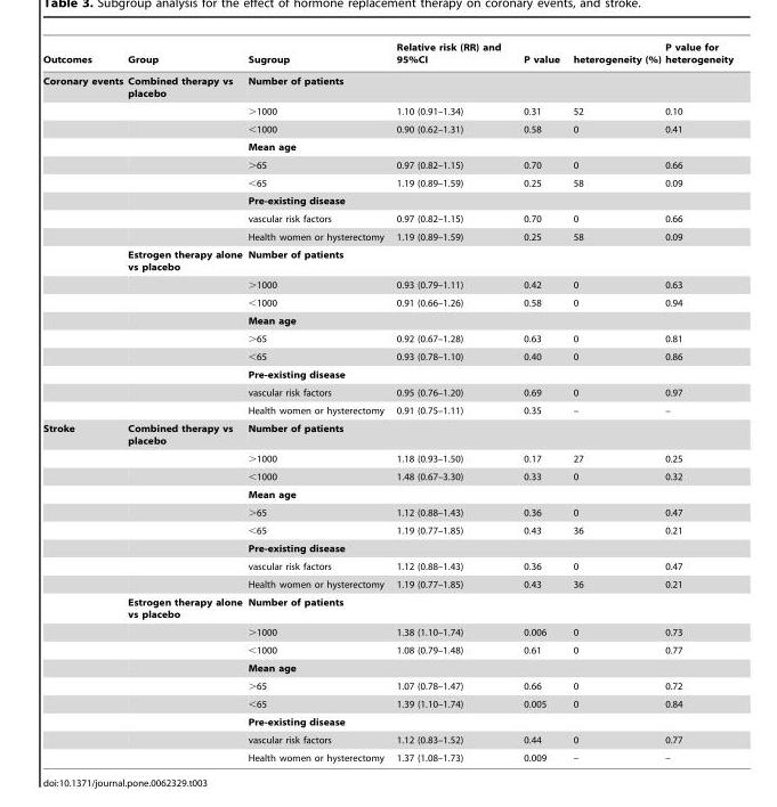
<table><thead><tr><td>Outcomes</td><td>Group</td><td>Sugroup</td><td>Relative risk (RR) and 95%CI</td><td>P value</td><td>heterogeneity (%)</td><td>P value for heterogeneity</td></tr></thead><tbody><tr><td rowspan="18">Coronary events</td><td>Combined therapy vs placebo</td><td colspan="5">Number of patients</td></tr><tr><td></td><td>&gt;1000</td><td>1.10 (0.91–1.34)</td><td>0.31</td><td>52</td><td>0.10</td></tr><tr><td></td><td>&lt;1000</td><td>0.90 (0.62–1.31)</td><td>0.58</td><td>0</td><td>0.41</td></tr><tr><td></td><td colspan="5">Mean age</td></tr><tr><td></td><td>&gt;65</td><td>0.97 (0.82–1.15)</td><td>0.70</td><td>0</td><td>0.66</td></tr><tr><td></td><td>&lt;65</td><td>1.19 (0.89–1.59)</td><td>0.25</td><td>58</td><td>0.09</td></tr><tr><td></td><td colspan="5">Pre-existing disease</td></tr><tr><td></td><td>vascular risk factors</td><td>0.97 (0.82–1.15)</td><td>0.70</td><td>0</td><td>0.66</td></tr><tr><td></td><td>Health women or hysterectomy</td><td>1.19 (0.89–1.59)</td><td>0.25</td><td>58</td><td>0.09</td></tr><tr><td>Estrogen therapy alone vs placebo</td><td colspan="5">Number of patients</td></tr><tr><td></td><td>&gt;1000</td><td>0.93 (0.79–1.11)</td><td>0.42</td><td>0</td><td>0.63</td></tr><tr><td></td><td>&lt;1000</td><td>0.91 (0.66–1.26)</td><td>0.58</td><td>0</td><td>0.94</td></tr><tr><td></td><td colspan="5">Mean age</td></tr><tr><td></td><td>&gt;65</td><td>0.92 (0.67–1.28)</td><td>0.63</td><td>0</td><td>0.81</td></tr><tr><td></td><td>&lt;65</td><td>0.93 (0.78–1.10)</td><td>0.40</td><td>0</td><td>0.86</td></tr><tr><td></td><td colspan="5">Pre-existing disease</td></tr><tr><td></td><td>vascular risk factors</td><td>0.95 (0.76–1.20)</td><td>0.69</td><td>0</td><td>0.97</td></tr><tr><td></td><td>Health women or hysterectomy</td><td>0.91 (0.75–1.11)</td><td>0.35</td><td>–</td><td>–</td></tr><tr><td rowspan="18">Stroke</td><td>Combined therapy vs placebo</td><td colspan="5">Number of patients</td></tr><tr><td></td><td>&gt;1000</td><td>1.18 (0.93–1.50)</td><td>0.17</td><td>27</td><td>0.25</td></tr><tr><td></td><td>&lt;1000</td><td>1.48 (0.67–3.30)</td><td>0.33</td><td>0</td><td>0.32</td></tr><tr><td></td><td colspan="5">Mean age</td></tr><tr><td></td><td>&gt;65</td><td>1.12 (0.88–1.43)</td><td>0.36</td><td>0</td><td>0.47</td></tr><tr><td></td><td>&lt;65</td><td>1.19 (0.77–1.85)</td><td>0.43</td><td>36</td><td>0.21</td></tr><tr><td></td><td colspan="5">Pre-existing disease</td></tr><tr><td></td><td>vascular risk factors</td><td>1.12 (0.88–1.43)</td><td>0.36</td><td>0</td><td>0.47</td></tr><tr><td></td><td>Health women or hysterectomy</td><td>1.19 (0.77–1.85)</td><td>0.43</td><td>36</td><td>0.21</td></tr><tr><td>Estrogen therapy alone vs placebo</td><td colspan="5">Number of patients</td></tr><tr><td></td><td>&gt;1000</td><td>1.38 (1.10–1.74)</td><td>0.006</td><td>0</td><td>0.73</td></tr><tr><td></td><td>&lt;1000</td><td>1.08 (0.79–1.48)</td><td>0.61</td><td>0</td><td>0.77</td></tr><tr><td></td><td colspan="5">Mean age</td></tr><tr><td></td><td>&gt;65</td><td>1.07 (0.78–1.47)</td><td>0.66</td><td>0</td><td>0.72</td></tr><tr><td></td><td>&lt;65</td><td>1.39 (1.10–1.74)</td><td>0.005</td><td>0</td><td>0.84</td></tr><tr><td></td><td colspan="5">Pre-existing disease</td></tr><tr><td></td><td>vascular risk factors</td><td>1.12 (0.83–1.52)</td><td>0.44</td><td>0</td><td>0.77</td></tr><tr><td></td><td>Health women or hysterectomy</td><td>1.37 (1.08–1.73)</td><td>0.009</td><td>–</td><td>–</td></tr></tbody></table>